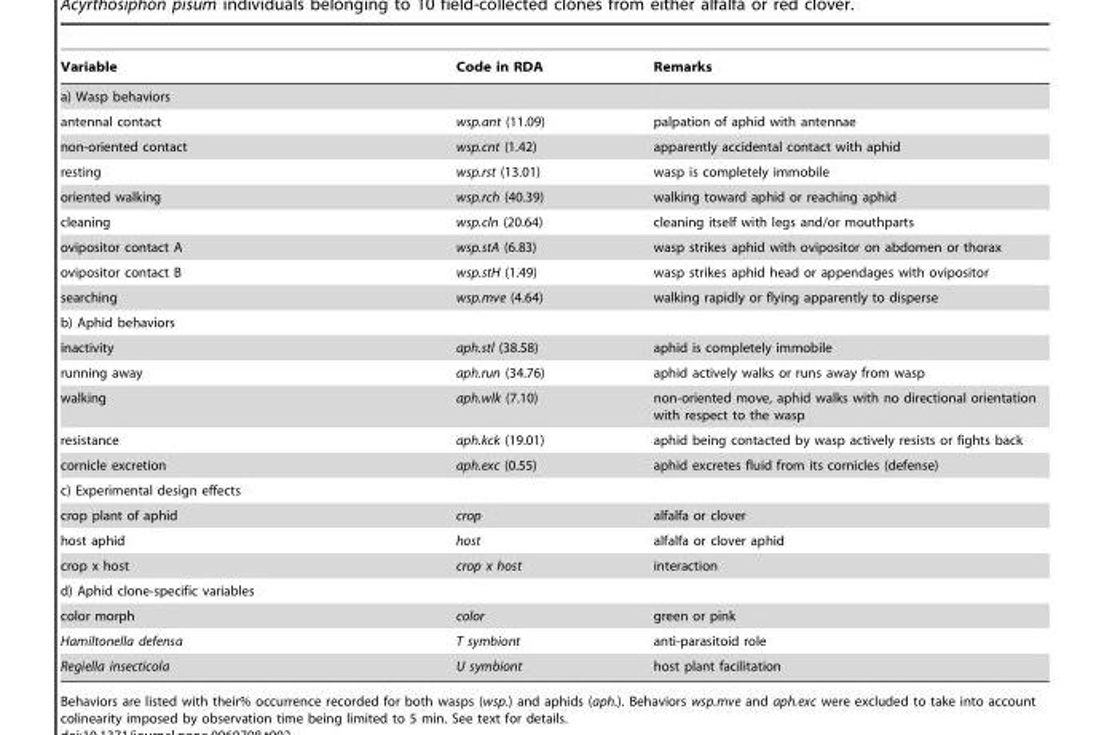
<table><thead><tr><td>Variable</td><td>Code in RDA</td><td>Remarks</td></tr></thead><tbody><tr><td colspan="3">a) Wasp behaviors</td></tr><tr><td>antennal contact</td><td>wsp.ant (11.09)</td><td>palpation of aphid with antennae</td></tr><tr><td>non-oriented contact</td><td>wsp.cnt (1.42)</td><td>apparently accidental contact with aphid</td></tr><tr><td>resting</td><td>wsp.rst (13.01)</td><td>wasp is completely immobile</td></tr><tr><td>oriented walking</td><td>wsp.rch (40.39)</td><td>walking toward aphid or reaching aphid</td></tr><tr><td>cleaning</td><td>wsp.cln (20.64)</td><td>cleaning itself with legs and/or mouthparts</td></tr><tr><td>ovipositor contact A</td><td>wsp.stA (6.83)</td><td>wasp strikes aphid with ovipositor on abdomen or thorax</td></tr><tr><td>ovipositor contact B</td><td>wsp.stH (1.49)</td><td>wasp strikes aphid head or appendages with ovipositor</td></tr><tr><td>searching</td><td>wsp.mve (4.64)</td><td>walking rapidly or flying apparently to disperse</td></tr><tr><td colspan="3">b) Aphid behaviors</td></tr><tr><td>inactivity</td><td>aph.stl (38.58)</td><td>aphid is completely immobile</td></tr><tr><td>running away</td><td>aph.run (34.76)</td><td>aphid actively walks or runs away from wasp</td></tr><tr><td>walking</td><td>aph.wlk (7.10)</td><td>non-oriented move, aphid walks with no directional orientation with respect to the wasp</td></tr><tr><td>resistance</td><td>aph.kck (19.01)</td><td>aphid being contacted by wasp actively resists or fights back</td></tr><tr><td>cornicle excretion</td><td>aph.exc (0.55)</td><td>aphid excretes fluid from its cornicles (defense)</td></tr><tr><td colspan="3">c) Experimental design effects</td></tr><tr><td>crop plant of aphid</td><td>crop</td><td>alfalfa or clover</td></tr><tr><td>host aphid</td><td>host</td><td>alfalfa or clover aphid</td></tr><tr><td>crop x host</td><td>crop x host</td><td>interaction</td></tr><tr><td colspan="3">d) Aphid clone-specific variables</td></tr><tr><td>color morph</td><td>color</td><td>green or pink</td></tr><tr><td>Hamiltonella defensa</td><td>T symbiont</td><td>anti-parasitoid role</td></tr><tr><td>Regiella insecticola</td><td>U symbiont</td><td>host plant facilitation</td></tr></tbody></table>